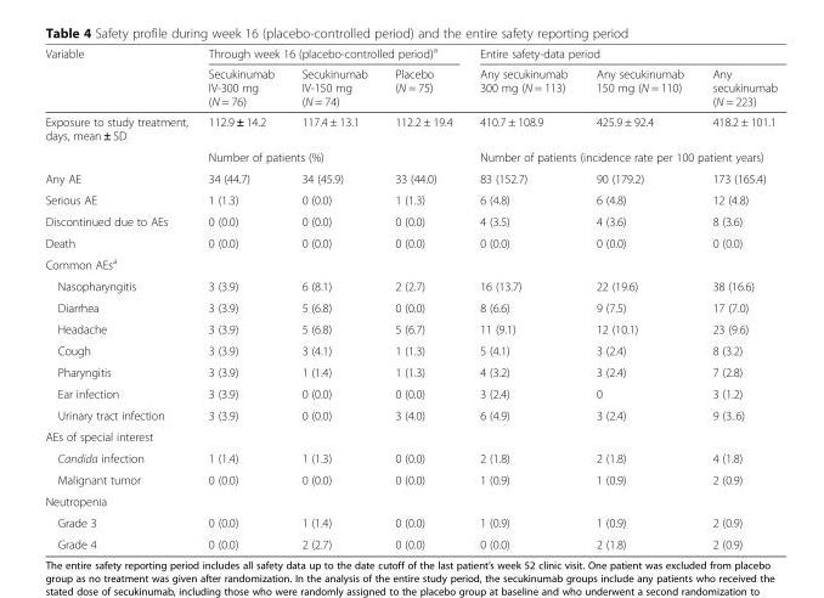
<table><thead><tr><td rowspan="2">Variable</td><td colspan="3">Through week 16 (placebo-controlled period)<sup>a</sup></td><td colspan="3">Entire safety-data period</td></tr><tr><td>Secukinumab IV-300 mg (N = 76)</td><td>Secukinumab IV-150 mg (N = 74)</td><td>Placebo (N = 75)</td><td>Any secukinumab 300 mg (N = 113)</td><td>Any secukinumab 150 mg (N = 110)</td><td>Any secukinumab (N = 223)</td></tr></thead><tbody><tr><td rowspan="2">Exposure to study treatment, days, mean ± SD</td><td>112.9 ± 14.2</td><td>117.4 ± 13.1</td><td>112.2 ± 19.4</td><td>410.7 ± 108.9</td><td>425.9 ± 92.4</td><td>418.2 ± 101.1</td></tr><tr><td colspan="3">Number of patients (%)</td><td colspan="3">Number of patients (incidence rate per 100 patient years)</td></tr><tr><td>Any AE</td><td>34 (44.7)</td><td>34 (45.9)</td><td>33 (44.0)</td><td>83 (152.7)</td><td>90 (179.2)</td><td>173 (165.4)</td></tr><tr><td>Serious AE</td><td>1 (1.3)</td><td>0 (0.0)</td><td>1 (1.3)</td><td>6 (4.8)</td><td>6 (4.8)</td><td>12 (4.8)</td></tr><tr><td>Discontinued due to AEs</td><td>0 (0.0)</td><td>0 (0.0)</td><td>0 (0.0)</td><td>4 (3.5)</td><td>4 (3.6)</td><td>8 (3.6)</td></tr><tr><td>Death</td><td>0 (0.0)</td><td>0 (0.0)</td><td>0 (0.0)</td><td>0 (0.0)</td><td>0 (0.0)</td><td>0 (0.0)</td></tr><tr><td colspan="7">Common AEs<sup>a</sup></td></tr><tr><td>Nasopharyngitis</td><td>3 (3.9)</td><td>6 (8.1)</td><td>2 (2.7)</td><td>16 (13.7)</td><td>22 (19.6)</td><td>38 (16.6)</td></tr><tr><td>Diarrhea</td><td>3 (3.9)</td><td>5 (6.8)</td><td>0 (0.0)</td><td>8 (6.6)</td><td>9 (7.5)</td><td>17 (7.0)</td></tr><tr><td>Headache</td><td>3 (3.9)</td><td>5 (6.8)</td><td>5 (6.7)</td><td>11 (9.1)</td><td>12 (10.1)</td><td>23 (9.6)</td></tr><tr><td>Cough</td><td>3 (3.9)</td><td>3 (4.1)</td><td>1 (1.3)</td><td>5 (4.1)</td><td>3 (2.4)</td><td>8 (3.2)</td></tr><tr><td>Pharyngitis</td><td>3 (3.9)</td><td>1 (1.4)</td><td>1 (1.3)</td><td>4 (3.2)</td><td>3 (2.4)</td><td>7 (2.8)</td></tr><tr><td>Ear infection</td><td>3 (3.9)</td><td>0 (0.0)</td><td>0 (0.0)</td><td>3 (2.4)</td><td>0</td><td>3 (1.2)</td></tr><tr><td>Urinary tract infection</td><td>3 (3.9)</td><td>0 (0.0)</td><td>3 (4.0)</td><td>6 (4.9)</td><td>3 (2.4)</td><td>9 (3..6)</td></tr><tr><td colspan="7">AEs of special interest</td></tr><tr><td>Candida infection</td><td>1 (1.4)</td><td>1 (1.3)</td><td>0 (0.0)</td><td>2 (1.8)</td><td>2 (1.8)</td><td>4 (1.8)</td></tr><tr><td>Malignant tumor</td><td>0 (0.0)</td><td>0 (0.0)</td><td>0 (0.0)</td><td>1 (0.9)</td><td>1 (0.9)</td><td>2 (0.9)</td></tr><tr><td colspan="7">Neutropenia</td></tr><tr><td>Grade 3</td><td>0 (0.0)</td><td>1 (1.4)</td><td>0 (0.0)</td><td>1 (0.9)</td><td>1 (0.9)</td><td>2 (0.9)</td></tr><tr><td>Grade 4</td><td>0 (0.0)</td><td>2 (2.7)</td><td>0 (0.0)</td><td>0 (0.0)</td><td>2 (1.8)</td><td>2 (0.9)</td></tr></tbody></table>